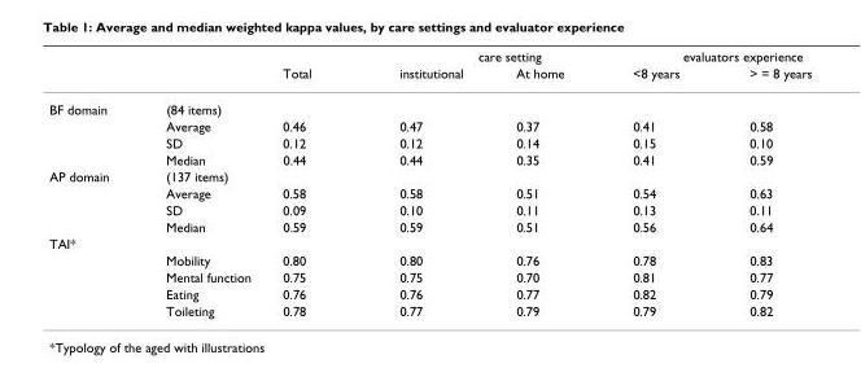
<table><thead><tr><td rowspan="2"></td><td rowspan="2"></td><td rowspan="2">Total</td><td colspan="2">care setting</td><td colspan="2">evaluators experience</td></tr><tr><td>institutional</td><td>At home</td><td>&lt;8 years</td><td>&gt; = 8 years</td></tr></thead><tbody><tr><td rowspan="4">BF domain</td><td>(84 items)</td><td></td><td></td><td></td><td></td><td></td></tr><tr><td>Average</td><td>0.46</td><td>0.47</td><td>0.37</td><td>0.41</td><td>0.58</td></tr><tr><td>SD</td><td>0.12</td><td>0.12</td><td>0.14</td><td>0.15</td><td>0.10</td></tr><tr><td>Median</td><td>0.44</td><td>0.44</td><td>0.35</td><td>0.41</td><td>0.59</td></tr><tr><td rowspan="4">AP domain</td><td>(137 items)</td><td></td><td></td><td></td><td></td><td></td></tr><tr><td>Average</td><td>0.58</td><td>0.58</td><td>0.51</td><td>0.54</td><td>0.63</td></tr><tr><td>SD</td><td>0.09</td><td>0.10</td><td>0.11</td><td>0.13</td><td>0.11</td></tr><tr><td>Median</td><td>0.59</td><td>0.59</td><td>0.51</td><td>0.56</td><td>0.64</td></tr><tr><td colspan="7">TAI*</td></tr><tr><td></td><td>Mobility</td><td>0.80</td><td>0.80</td><td>0.76</td><td>0.78</td><td>0.83</td></tr><tr><td></td><td>Mental function</td><td>0.75</td><td>0.75</td><td>0.70</td><td>0.81</td><td>0.77</td></tr><tr><td></td><td>Eating</td><td>0.76</td><td>0.76</td><td>0.77</td><td>0.82</td><td>0.79</td></tr><tr><td></td><td>Toileting</td><td>0.78</td><td>0.77</td><td>0.79</td><td>0.79</td><td>0.82</td></tr></tbody></table>